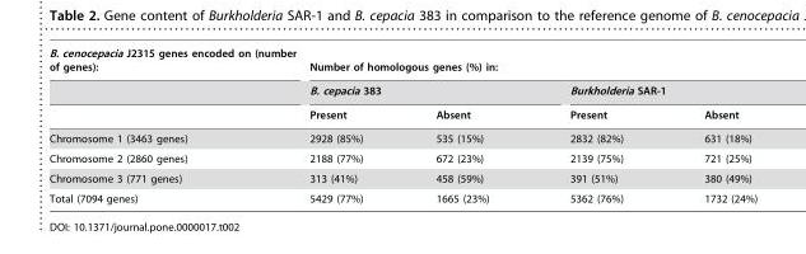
<table><thead><tr><td rowspan="3">B. cenocepacia J2315 genes encoded on (number of genes):</td><td colspan="4">Number of homologous genes (%) in:</td></tr><tr><td colspan="2">B. cepacia 383</td><td colspan="2">Burkholderia SAR-1</td></tr><tr><td>Present</td><td>Absent</td><td>Present</td><td>Absent</td></tr></thead><tbody><tr><td>Chromosome 1 (3463 genes)</td><td>2928 (85%)</td><td>535 (15%)</td><td>2832 (82%)</td><td>631 (18%)</td></tr><tr><td>Chromosome 2 (2860 genes)</td><td>2188 (77%)</td><td>672 (23%)</td><td>2139 (75%)</td><td>721 (25%)</td></tr><tr><td>Chromosome 3 (771 genes)</td><td>313 (41%)</td><td>458 (59%)</td><td>391 (51%)</td><td>380 (49%)</td></tr><tr><td>Total (7094 genes)</td><td>5429 (77%)</td><td>1665 (23%)</td><td>5362 (76%)</td><td>1732 (24%)</td></tr></tbody></table>